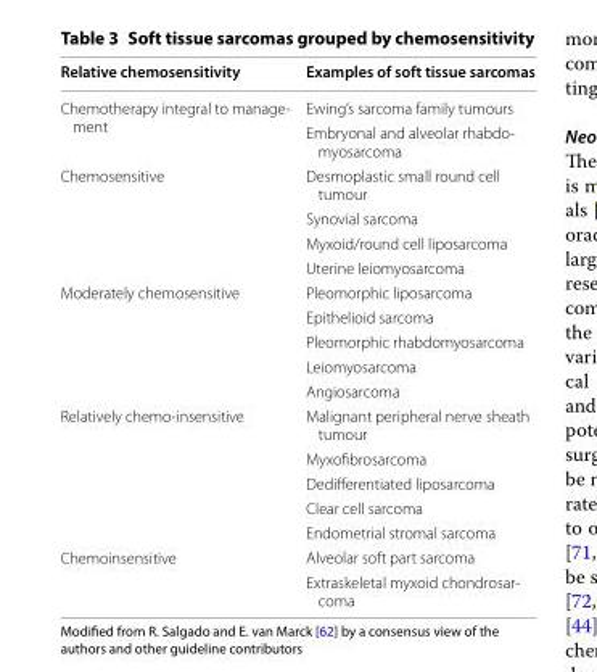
<table><thead><tr><td>Relative chemosensitivity</td><td>Examples of soft tissue sarcomas</td></tr></thead><tbody><tr><td rowspan="2">Chemotherapy integral to manage- ment</td><td>Ewing’s sarcoma family tumours</td></tr><tr><td>Embryonal and alveolar rhabdo- myosarcoma</td></tr><tr><td rowspan="4">Chemosensitive</td><td>Desmoplastic small round cell tumour</td></tr><tr><td>Synovial sarcoma</td></tr><tr><td>Myxoid/round cell liposarcoma</td></tr><tr><td>Uterine leiomyosarcoma</td></tr><tr><td rowspan="5">Moderately chemosensitive</td><td>Pleomorphic liposarcoma</td></tr><tr><td>Epithelioid sarcoma</td></tr><tr><td>Pleomorphic rhabdomyosarcoma</td></tr><tr><td>Leiomyosarcoma</td></tr><tr><td>Angiosarcoma</td></tr><tr><td rowspan="5">Relatively chemo-insensitive</td><td>Malignant peripheral nerve sheath tumour</td></tr><tr><td>Myxofibrosarcoma</td></tr><tr><td>Dedifferentiated liposarcoma</td></tr><tr><td>Clear cell sarcoma</td></tr><tr><td>Endometrial stromal sarcoma</td></tr><tr><td rowspan="2">Chemoinsensitive</td><td>Alveolar soft part sarcoma</td></tr><tr><td>Extraskeletal myxoid chondrosar- coma</td></tr></tbody></table>